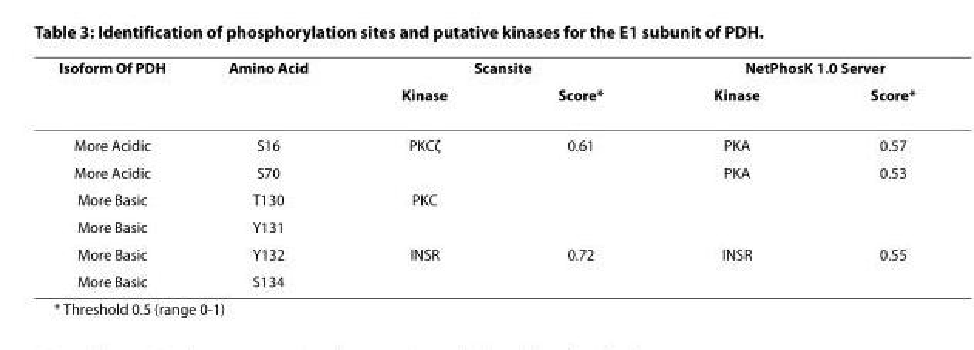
<table><thead><tr><td rowspan="2">Isoform Of PDH</td><td rowspan="2">Amino Acid</td><td colspan="2">Scansite</td><td colspan="2">NetPhosK 1.0 Server</td></tr><tr><td>Kinase</td><td>Score*</td><td>Kinase</td><td>Score*</td></tr></thead><tbody><tr><td>More Acidic</td><td>S16</td><td>PKCζ</td><td>0.61</td><td>PKA</td><td>0.57</td></tr><tr><td>More Acidic</td><td>S70</td><td></td><td></td><td>PKA</td><td>0.53</td></tr><tr><td>More Basic</td><td>T130</td><td>PKC</td><td></td><td></td><td></td></tr><tr><td>More Basic</td><td>Y131</td><td></td><td></td><td></td><td></td></tr><tr><td>More Basic</td><td>Y132</td><td>INSR</td><td>0.72</td><td>INSR</td><td>0.55</td></tr><tr><td>More Basic</td><td>S134</td><td></td><td></td><td></td><td></td></tr></tbody></table>